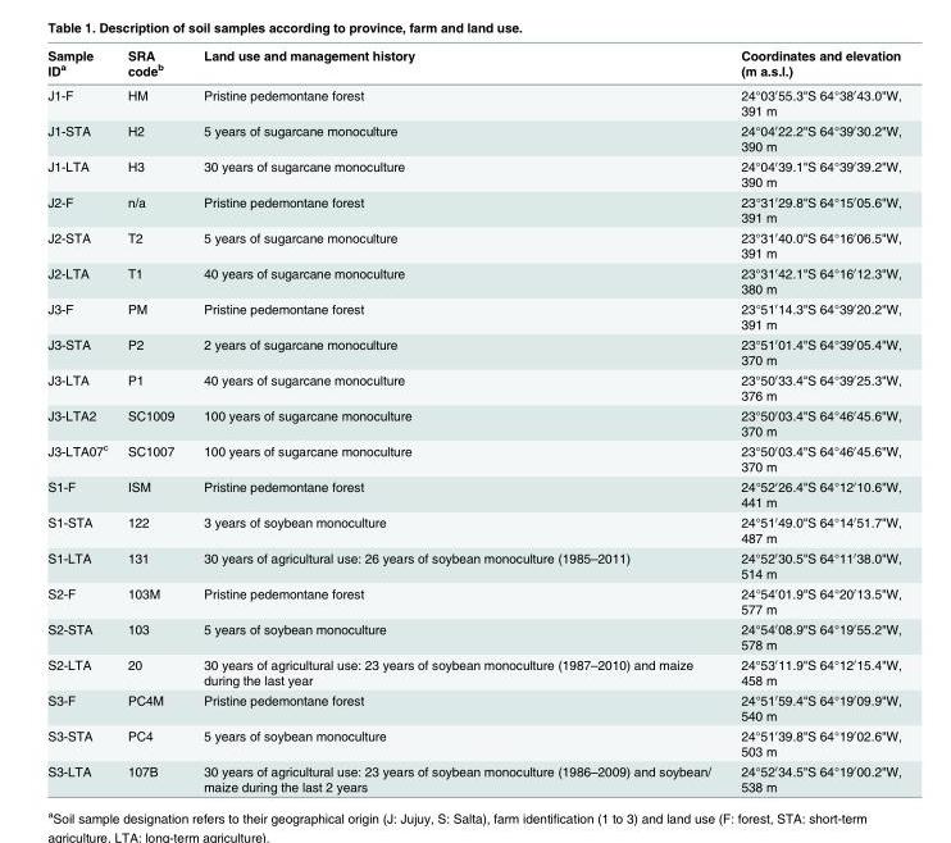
<table><thead><tr><td>Sample ID<sup>a</sup></td><td>SRA code<sup>b</sup></td><td>Land use and management history</td><td>Coordinates and elevation (m a.s.l.)</td></tr></thead><tbody><tr><td>J1-F</td><td>HM</td><td>Pristine pedemontane forest</td><td>24°03′55.3&quot;S 64°38′43.0&quot;W, 391 m</td></tr><tr><td>J1-STA</td><td>H2</td><td>5 years of sugarcane monoculture</td><td>24°04′22.2&quot;S 64°39′30.2&quot;W, 390 m</td></tr><tr><td>J1-LTA</td><td>H3</td><td>30 years of sugarcane monoculture</td><td>24°04′39.1&quot;S 64°39′39.2&quot;W, 390 m</td></tr><tr><td>J2-F</td><td>n/a</td><td>Pristine pedemontane forest</td><td>23°31′29.8&quot;S 64°15′05.6&quot;W, 391 m</td></tr><tr><td>J2-STA</td><td>T2</td><td>5 years of sugarcane monoculture</td><td>23°31′40.0&quot;S 64°16′06.5&quot;W, 391 m</td></tr><tr><td>J2-LTA</td><td>T1</td><td>40 years of sugarcane monoculture</td><td>23°31′42.1&quot;S 64°16′12.3&quot;W, 380 m</td></tr><tr><td>J3-F</td><td>PM</td><td>Pristine pedemontane forest</td><td>23°51′14.3&quot;S 64°39′20.2&quot;W, 391 m</td></tr><tr><td>J3-STA</td><td>P2</td><td>2 years of sugarcane monoculture</td><td>23°51′01.4&quot;S 64°39′05.4&quot;W, 370 m</td></tr><tr><td>J3-LTA</td><td>P1</td><td>40 years of sugarcane monoculture</td><td>23°50′33.4&quot;S 64°39′25.3&quot;W, 376 m</td></tr><tr><td>J3-LTA2</td><td>SC1009</td><td>100 years of sugarcane monoculture</td><td>23°50′03.4&quot;S 64°46′45.6&quot;W, 370 m</td></tr><tr><td>J3-LTA07<sup>c</sup></td><td>SC1007</td><td>100 years of sugarcane monoculture</td><td>23°50′03.4&quot;S 64°46′45.6&quot;W, 370 m</td></tr><tr><td>S1-F</td><td>ISM</td><td>Pristine pedemontane forest</td><td>24°52′26.4&quot;S 64°12′10.6&quot;W, 441 m</td></tr><tr><td>S1-STA</td><td>122</td><td>3 years of soybean monoculture</td><td>24°51′49.0&quot;S 64°14′51.7&quot;W, 487 m</td></tr><tr><td>S1-LTA</td><td>131</td><td>30 years of agricultural use: 26 years of soybean monoculture (1985–2011)</td><td>24°52′30.5&quot;S 64°11′38.0&quot;W, 514 m</td></tr><tr><td>S2-F</td><td>103M</td><td>Pristine pedemontane forest</td><td>24°54′01.9&quot;S 64°20′13.5&quot;W, 577 m</td></tr><tr><td>S2-STA</td><td>103</td><td>5 years of soybean monoculture</td><td>24°54′08.9&quot;S 64°19′55.2&quot;W, 578 m</td></tr><tr><td>S2-LTA</td><td>20</td><td>30 years of agricultural use: 23 years of soybean monoculture (1987–2010) and maize during the last year</td><td>24°53′11.9&quot;S 64°12′15.4&quot;W, 458 m</td></tr><tr><td>S3-F</td><td>PC4M</td><td>Pristine pedemontane forest</td><td>24°51′59.4&quot;S 64°19′09.9&quot;W, 540 m</td></tr><tr><td>S3-STA</td><td>PC4</td><td>5 years of soybean monoculture</td><td>24°51′39.8&quot;S 64°19′02.6&quot;W, 503 m</td></tr><tr><td>S3-LTA</td><td>107B</td><td>30 years of agricultural use: 23 years of soybean monoculture (1986–2009) and soybean/ maize during the last 2 years</td><td>24°52′34.5&quot;S 64°19′00.2&quot;W, 538 m</td></tr></tbody></table>